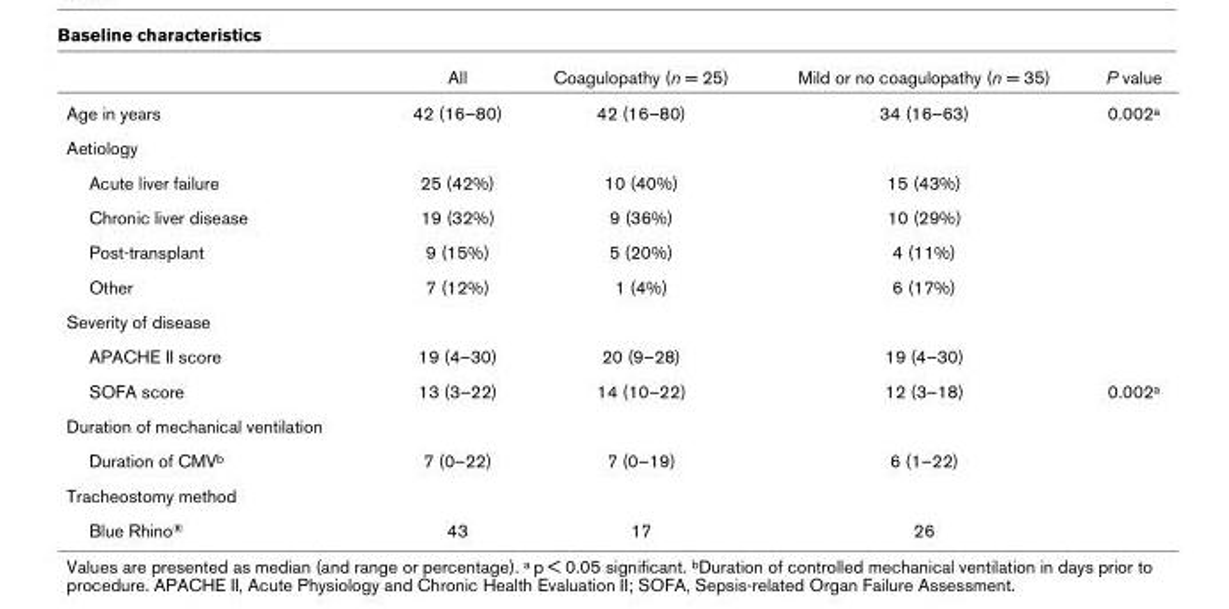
<table><thead><tr><td></td><td>All</td><td>Coagulopathy (n = 25)</td><td>Mild or no coagulopathy (n = 35)</td><td>P value</td></tr></thead><tbody><tr><td>Age in years</td><td>42 (16–80)</td><td>42 (16–80)</td><td>34 (16–63)</td><td>0.002<sup>a</sup></td></tr><tr><td colspan="5">Aetiology</td></tr><tr><td>Acute liver failure</td><td>25 (42%)</td><td>10 (40%)</td><td>15 (43%)</td><td></td></tr><tr><td>Chronic liver disease</td><td>19 (32%)</td><td>9 (36%)</td><td>10 (29%)</td><td></td></tr><tr><td>Post-transplant</td><td>9 (15%)</td><td>5 (20%)</td><td>4 (11%)</td><td></td></tr><tr><td>Other</td><td>7 (12%)</td><td>1 (4%)</td><td>6 (17%)</td><td></td></tr><tr><td colspan="5">Severity of disease</td></tr><tr><td>APACHE II score</td><td>19 (4–30)</td><td>20 (9–28)</td><td>19 (4–30)</td><td></td></tr><tr><td>SOFA score</td><td>13 (3–22)</td><td>14 (10–22)</td><td>12 (3–18)</td><td>0.002<sup>a</sup></td></tr><tr><td colspan="5">Duration of mechanical ventilation</td></tr><tr><td>Duration of CMV<sup>b</sup></td><td>7 (0–22)</td><td>7 (0–19)</td><td>6 (1–22)</td><td></td></tr><tr><td colspan="5">Tracheostomy method</td></tr><tr><td>Blue Rhino<sup>®</sup></td><td>43</td><td>17</td><td>26</td><td></td></tr></tbody></table>